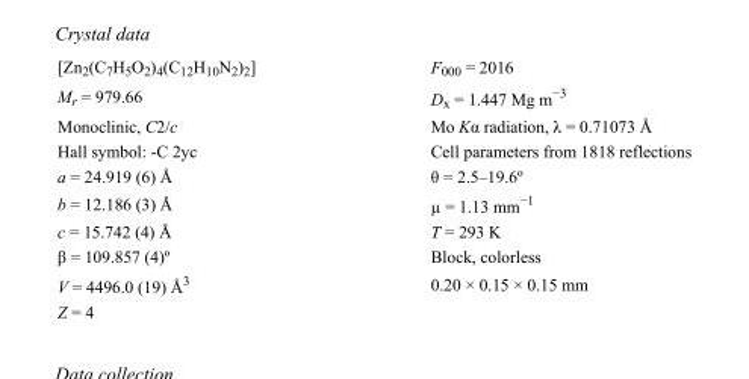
<table><tbody><tr><td>[Zn<sub>2</sub>(C<sub>7</sub>H<sub>5</sub>O<sub>2</sub>)<sub>4</sub>(C<sub>12</sub>H<sub>10</sub>N<sub>2</sub>)<sub>2</sub>]</td><td>F000 = 2016</td></tr><tr><td>M<sub>r</sub> = 979.66</td><td>D<sub>x</sub> = 1.447 Mg m<sup>−3</sup></td></tr><tr><td>Monoclinic, C2/c</td><td>Mo Kα radiation, λ = 0.71073 Å</td></tr><tr><td>Hall symbol: -C 2yc</td><td>Cell parameters from 1818 reflections</td></tr><tr><td>a = 24.919 (6) Å</td><td>θ = 2.5–19.6º</td></tr><tr><td>b = 12.186 (3) Å</td><td>µ = 1.13 mm<sup>−1</sup></td></tr><tr><td>c = 15.742 (4) Å</td><td>T = 293 K</td></tr><tr><td>β = 109.857 (4)º</td><td>Block, colorless</td></tr><tr><td>V = 4496.0 (19) Å<sup>3</sup></td><td>0.20 × 0.15 × 0.15 mm</td></tr><tr><td>Z = 4</td><td></td></tr></tbody></table>